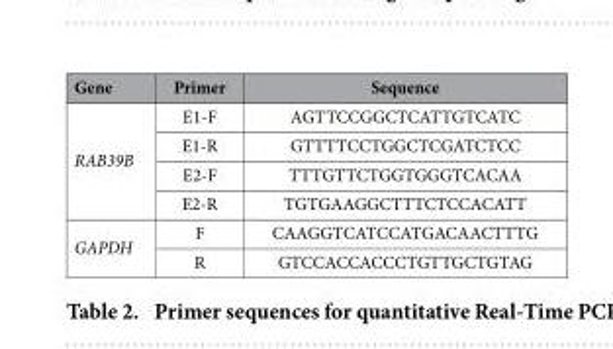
<table><thead><tr><td>Gene</td><td>Primer</td><td>Sequence</td></tr></thead><tbody><tr><td rowspan="4">RAB39B</td><td>E1-F</td><td>AGTTCCGGCTCATTGTCATC</td></tr><tr><td>E1-R</td><td>GTTTTCCTGGCTCGATCTCC</td></tr><tr><td>E2-F</td><td>TTTGTTCTGGTGGGTCACAA</td></tr><tr><td>E2-R</td><td>TGTGAAGGCTTTCTCCACATT</td></tr><tr><td rowspan="2">GAPDH</td><td>F</td><td>CAAGGTCATCCATGACAACTTTG</td></tr><tr><td>R</td><td>GTCCACCACCCTGTTGCTGTAG</td></tr></tbody></table>